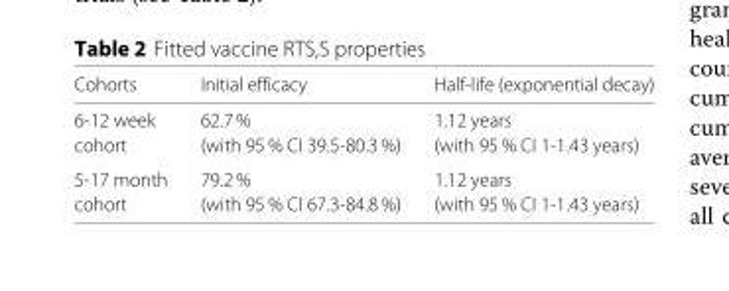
<table><thead><tr><td>Cohorts</td><td>Initial efficacy</td><td>Half-life (exponential decay)</td></tr></thead><tbody><tr><td>6-12 week</td><td>62.7 %</td><td>1.12 years</td></tr><tr><td>cohort</td><td>(with 95 % CI 39.5-80.3 %)</td><td>(with 95 % CI 1-1.43 years)</td></tr><tr><td>5-17 month</td><td>79.2 %</td><td>1.12 years</td></tr><tr><td>cohort</td><td>(with 95 % CI 67.3-84.8 %)</td><td>(with 95 % CI 1-1.43 years)</td></tr></tbody></table>